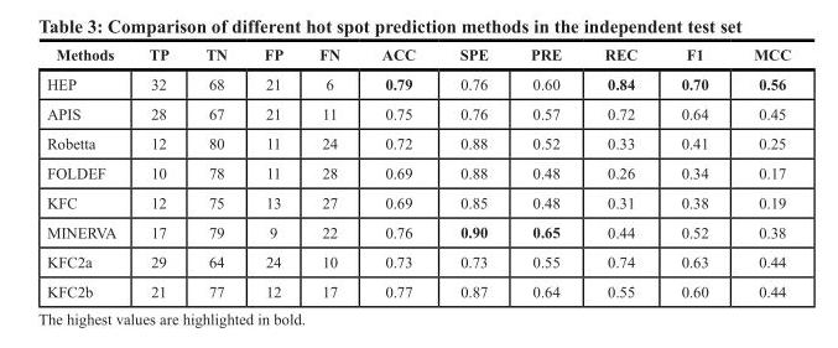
<table><thead><tr><td>Methods</td><td>TP</td><td>TN</td><td>FP</td><td>FN</td><td>ACC</td><td>SPE</td><td>PRE</td><td>REC</td><td>F1</td><td>MCC</td></tr></thead><tbody><tr><td>HEP</td><td>32</td><td>68</td><td>21</td><td>6</td><td>0.79</td><td>0.76</td><td>0.60</td><td>0.84</td><td>0.70</td><td>0.56</td></tr><tr><td>APIS</td><td>28</td><td>67</td><td>21</td><td>11</td><td>0.75</td><td>0.76</td><td>0.57</td><td>0.72</td><td>0.64</td><td>0.45</td></tr><tr><td>Robetta</td><td>12</td><td>80</td><td>11</td><td>24</td><td>0.72</td><td>0.88</td><td>0.52</td><td>0.33</td><td>0.41</td><td>0.25</td></tr><tr><td>FOLDEF</td><td>10</td><td>78</td><td>11</td><td>28</td><td>0.69</td><td>0.88</td><td>0.48</td><td>0.26</td><td>0.34</td><td>0.17</td></tr><tr><td>KFC</td><td>12</td><td>75</td><td>13</td><td>27</td><td>0.69</td><td>0.85</td><td>0.48</td><td>0.31</td><td>0.38</td><td>0.19</td></tr><tr><td>MINERVA</td><td>17</td><td>79</td><td>9</td><td>22</td><td>0.76</td><td>0.90</td><td>0.65</td><td>0.44</td><td>0.52</td><td>0.38</td></tr><tr><td>KFC2a</td><td>29</td><td>64</td><td>24</td><td>10</td><td>0.73</td><td>0.73</td><td>0.55</td><td>0.74</td><td>0.63</td><td>0.44</td></tr><tr><td>KFC2b</td><td>21</td><td>77</td><td>12</td><td>17</td><td>0.77</td><td>0.87</td><td>0.64</td><td>0.55</td><td>0.60</td><td>0.44</td></tr></tbody></table>